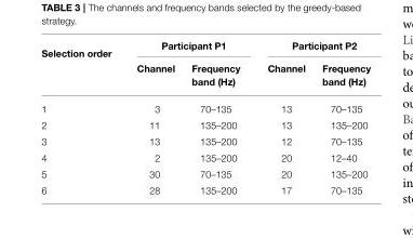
<table><thead><tr><td rowspan="2">Selection order</td><td colspan="2">Participant P1</td><td colspan="2">Participant P2</td></tr><tr><td>Channel</td><td>Frequency band (Hz)</td><td>Channel</td><td>Frequency band (Hz)</td></tr></thead><tbody><tr><td>1</td><td>3</td><td>70–135</td><td>13</td><td>70–135</td></tr><tr><td>2</td><td>11</td><td>135–200</td><td>13</td><td>135–200</td></tr><tr><td>3</td><td>13</td><td>135–200</td><td>12</td><td>70–135</td></tr><tr><td>4</td><td>2</td><td>135–200</td><td>20</td><td>12–40</td></tr><tr><td>5</td><td>30</td><td>70–135</td><td>20</td><td>135–200</td></tr><tr><td>6</td><td>28</td><td>135–200</td><td>17</td><td>70–135</td></tr></tbody></table>